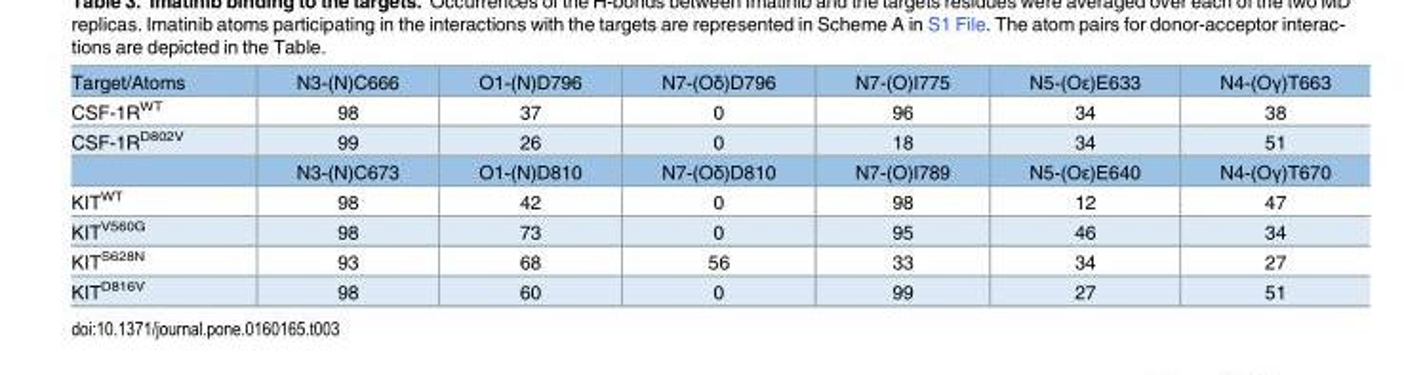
<table><tbody><tr><td>Target/Atoms</td><td>N3-(N)C666</td><td>O1-(N)D796</td><td>N7-(Oδ)D796</td><td>N7-(O)I775</td><td>N5-(Oε)E633</td><td>N4-(Oγ)T663</td></tr><tr><td>CSF-1R<sup>WT</sup></td><td>98</td><td>37</td><td>0</td><td>96</td><td>34</td><td>38</td></tr><tr><td rowspan="2">CSF-1R<sup>D802V</sup></td><td>99</td><td>26</td><td>0</td><td>18</td><td>34</td><td>51</td></tr><tr><td>N3-(N)C673</td><td>O1-(N)D810</td><td>N7-(Oδ)D810</td><td>N7-(O)I789</td><td>N5-(Oε)E640</td><td>N4-(Oγ)T670</td></tr><tr><td>KIT<sup>WT</sup></td><td>98</td><td>42</td><td>0</td><td>98</td><td>12</td><td>47</td></tr><tr><td>KIT<sup>V560G</sup></td><td>98</td><td>73</td><td>0</td><td>95</td><td>46</td><td>34</td></tr><tr><td>KIT<sup>S628N</sup></td><td>93</td><td>68</td><td>56</td><td>33</td><td>34</td><td>27</td></tr><tr><td>KIT<sup>D816V</sup></td><td>98</td><td>60</td><td>0</td><td>99</td><td>27</td><td>51</td></tr></tbody></table>